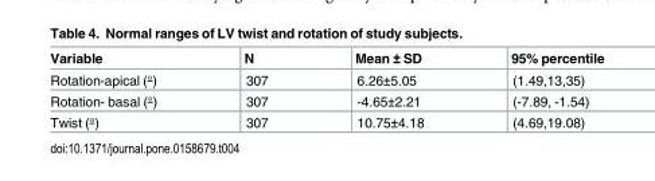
<table><thead><tr><td>Variable</td><td>N</td><td>Mean ± SD</td><td>95% percentile</td></tr></thead><tbody><tr><td>Rotation-apical (°)</td><td>307</td><td>6.26±5.05</td><td>(1.49,13,35)</td></tr><tr><td>Rotation- basal (°)</td><td>307</td><td>-4.65±2.21</td><td>(-7.89, -1.54)</td></tr><tr><td>Twist (°)</td><td>307</td><td>10.75±4.18</td><td>(4.69,19.08)</td></tr></tbody></table>